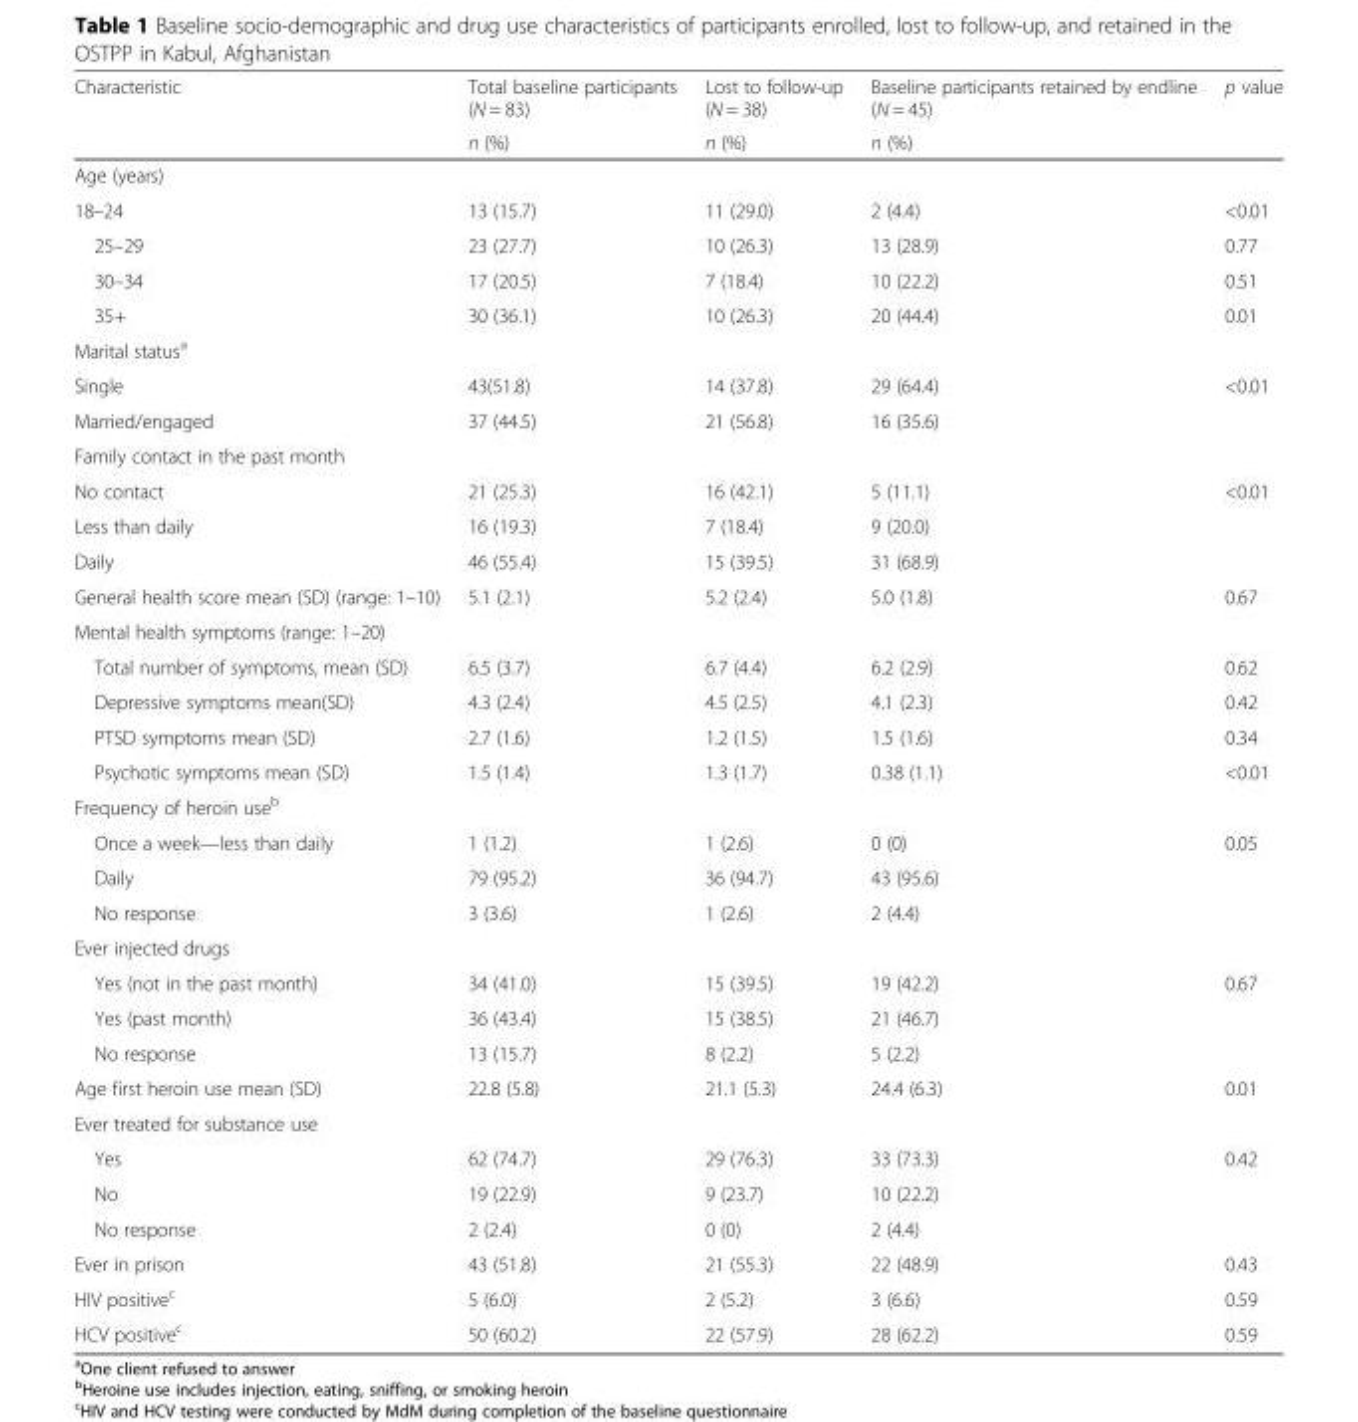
<table><thead><tr><td rowspan="2">Characteristic</td><td rowspan="2">Total baseline participants (N = 83) n (%)</td><td rowspan="2">Lost to follow-up (N = 38) n (%)</td><td rowspan="2">Baseline participants retained by endline (N = 45) n (%)</td><td rowspan="2">p value</td></tr><tr></tr></thead><tbody><tr><td colspan="5">Age (years)</td></tr><tr><td>18–24</td><td>13 (15.7)</td><td>11 (29.0)</td><td>2 (4.4)</td><td>&lt;0.01</td></tr><tr><td>25–29</td><td>23 (27.7)</td><td>10 (26.3)</td><td>13 (28.9)</td><td>0.77</td></tr><tr><td>30–34</td><td>17 (20.5)</td><td>7 (18.4)</td><td>10 (22.2)</td><td>0.51</td></tr><tr><td>35+</td><td>30 (36.1)</td><td>10 (26.3)</td><td>20 (44.4)</td><td>0.01</td></tr><tr><td colspan="5">Marital status<sup>a</sup></td></tr><tr><td>Single</td><td>43(51.8)</td><td>14 (37.8)</td><td>29 (64.4)</td><td>&lt;0.01</td></tr><tr><td>Married/engaged</td><td>37 (44.5)</td><td>21 (56.8)</td><td>16 (35.6)</td><td></td></tr><tr><td colspan="5">Family contact in the past month</td></tr><tr><td>No contact</td><td>21 (25.3)</td><td>16 (42.1)</td><td>5 (11.1)</td><td>&lt;0.01</td></tr><tr><td>Less than daily</td><td>16 (19.3)</td><td>7 (18.4)</td><td>9 (20.0)</td><td></td></tr><tr><td>Daily</td><td>46 (55.4)</td><td>15 (39.5)</td><td>31 (68.9)</td><td></td></tr><tr><td>General health score mean (SD) (range: 1–10)</td><td>5.1 (2.1)</td><td>5.2 (2.4)</td><td>5.0 (1.8)</td><td>0.67</td></tr><tr><td colspan="5">Mental health symptoms (range: 1–20)</td></tr><tr><td>Total number of symptoms, mean (SD)</td><td>6.5 (3.7)</td><td>6.7 (4.4)</td><td>6.2 (2.9)</td><td>0.62</td></tr><tr><td>Depressive symptoms mean(SD)</td><td>4.3 (2.4)</td><td>4.5 (2.5)</td><td>4.1 (2.3)</td><td>0.42</td></tr><tr><td>PTSD symptoms mean (SD)</td><td>2.7 (1.6)</td><td>1.2 (1.5)</td><td>1.5 (1.6)</td><td>0.34</td></tr><tr><td>Psychotic symptoms mean (SD)</td><td>1.5 (1.4)</td><td>1.3 (1.7)</td><td>0.38 (1.1)</td><td>&lt;0.01</td></tr><tr><td colspan="5">Frequency of heroin use<sup>b</sup></td></tr><tr><td>Once a week—less than daily</td><td>1 (1.2)</td><td>1 (2.6)</td><td>0 (0)</td><td>0.05</td></tr><tr><td>Daily</td><td>79 (95.2)</td><td>36 (94.7)</td><td>43 (95.6)</td><td></td></tr><tr><td>No response</td><td>3 (3.6)</td><td>1 (2.6)</td><td>2 (4.4)</td><td></td></tr><tr><td colspan="5">Ever injected drugs</td></tr><tr><td>Yes (not in the past month)</td><td>34 (41.0)</td><td>15 (39.5)</td><td>19 (42.2)</td><td>0.67</td></tr><tr><td>Yes (past month)</td><td>36 (43.4)</td><td>15 (38.5)</td><td>21 (46.7)</td><td></td></tr><tr><td>No response</td><td>13 (15.7)</td><td>8 (2.2)</td><td>5 (2.2)</td><td></td></tr><tr><td>Age first heroin use mean (SD)</td><td>22.8 (5.8)</td><td>21.1 (5.3)</td><td>24.4 (6.3)</td><td>0.01</td></tr><tr><td colspan="5">Ever treated for substance use</td></tr><tr><td>Yes</td><td>62 (74.7)</td><td>29 (76.3)</td><td>33 (73.3)</td><td>0.42</td></tr><tr><td>No</td><td>19 (22.9)</td><td>9 (23.7)</td><td>10 (22.2)</td><td></td></tr><tr><td>No response</td><td>2 (2.4)</td><td>0 (0)</td><td>2 (4.4)</td><td></td></tr><tr><td>Ever in prison</td><td>43 (51.8)</td><td>21 (55.3)</td><td>22 (48.9)</td><td>0.43</td></tr><tr><td>HIV positive<sup>c</sup></td><td>5 (6.0)</td><td>2 (5.2)</td><td>3 (6.6)</td><td>0.59</td></tr><tr><td>HCV positive<sup>c</sup></td><td>50 (60.2)</td><td>22 (57.9)</td><td>28 (62.2)</td><td>0.59</td></tr></tbody></table>